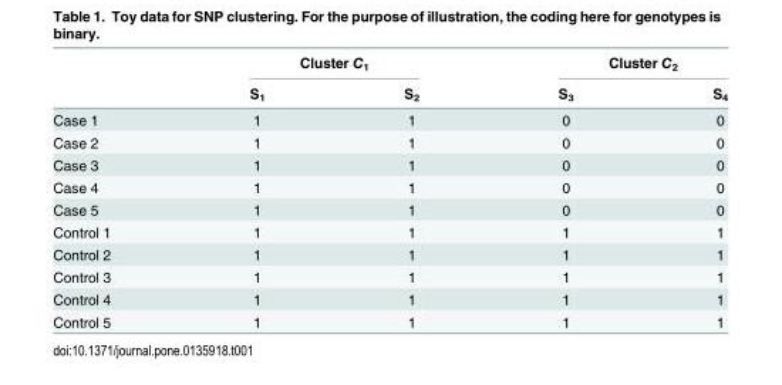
<table><thead><tr><td rowspan="2"></td><td colspan="2">Cluster C<sub>1</sub></td><td colspan="2">Cluster C<sub>2</sub></td></tr><tr><td>S<sub>1</sub></td><td>S<sub>2</sub></td><td>S<sub>3</sub></td><td>S<sub>4</sub></td></tr></thead><tbody><tr><td>Case 1</td><td>1</td><td>1</td><td>0</td><td>0</td></tr><tr><td>Case 2</td><td>1</td><td>1</td><td>0</td><td>0</td></tr><tr><td>Case 3</td><td>1</td><td>1</td><td>0</td><td>0</td></tr><tr><td>Case 4</td><td>1</td><td>1</td><td>0</td><td>0</td></tr><tr><td>Case 5</td><td>1</td><td>1</td><td>0</td><td>0</td></tr><tr><td>Control 1</td><td>1</td><td>1</td><td>1</td><td>1</td></tr><tr><td>Control 2</td><td>1</td><td>1</td><td>1</td><td>1</td></tr><tr><td>Control 3</td><td>1</td><td>1</td><td>1</td><td>1</td></tr><tr><td>Control 4</td><td>1</td><td>1</td><td>1</td><td>1</td></tr><tr><td>Control 5</td><td>1</td><td>1</td><td>1</td><td>1</td></tr></tbody></table>